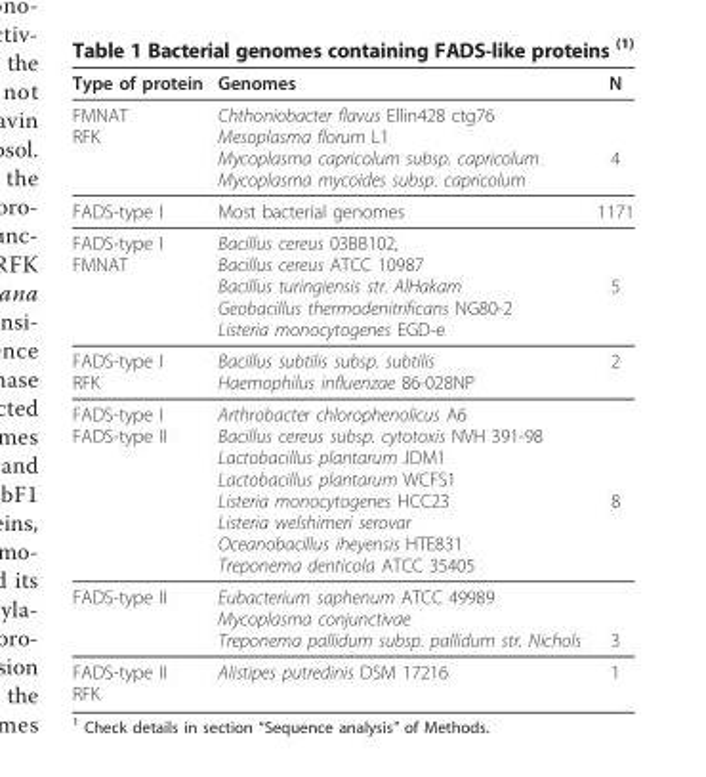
<table><thead><tr><td>Type of protein</td><td>Genomes</td><td>N</td></tr></thead><tbody><tr><td>FMNAT RFK</td><td>Chthoniobacter flavus Ellin428 ctg76 Mesoplasma florum L1 Mycoplasma capricolum subsp. capricolum Mycoplasma mycoides subsp. capricolum</td><td>4</td></tr><tr><td>FADS-type I</td><td>Most bacterial genomes</td><td>1171</td></tr><tr><td>FADS-type I FMNAT</td><td>Bacillus cereus 03BB102, Bacillus cereus ATCC 10987 Bacillus turingiensis str. AlHakam Geobacillus thermodenitrificans NG80-2 Listeria monocytogenes EGD-e</td><td>5</td></tr><tr><td>FADS-type I RFK</td><td>Bacillus subtilis subsp. subtilis Haemophilus influenzae 86-028NP</td><td>2</td></tr><tr><td>FADS-type I FADS-type II</td><td>Arthrobacter chlorophenolicus A6 Bacillus cereus subsp. cytotoxis NVH 391-98 Lactobacillus plantarum JDM1 Lactobacillus plantarum WCFS1 Listeria monocytogenes HCC23 Listeria welshimeri serovar Oceanobacillus iheyensis HTE831 Treponema denticola ATCC 35405</td><td>8</td></tr><tr><td>FADS-type II</td><td>Eubacterium saphenum ATCC 49989 Mycoplasma conjunctivae Treponema pallidum subsp. pallidum str. Nichols</td><td>3</td></tr><tr><td>FADS-type II RFK</td><td>Alistipes putredinis DSM 17216</td><td>1</td></tr></tbody></table>